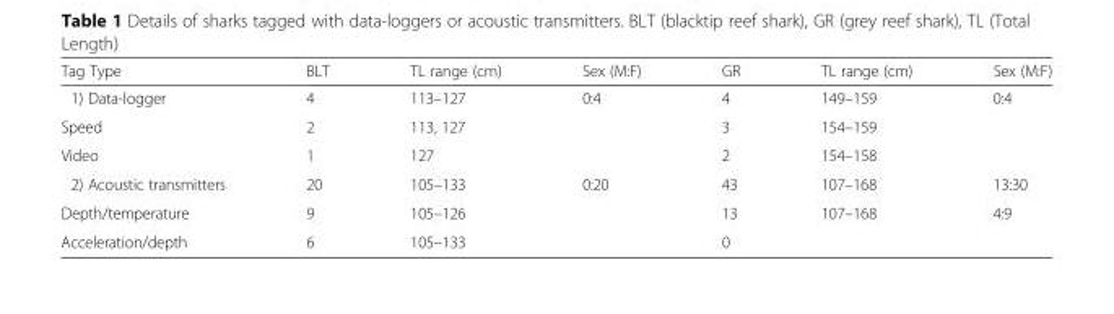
<table><thead><tr><td>Tag Type</td><td>BLT</td><td>TL range (cm)</td><td>Sex (M:F)</td><td>GR</td><td>TL range (cm)</td><td>Sex (M:F)</td></tr></thead><tbody><tr><td>1) Data-logger</td><td>4</td><td>113–127</td><td>0:4</td><td>4</td><td>149–159</td><td>0:4</td></tr><tr><td>Speed</td><td>2</td><td>113, 127</td><td></td><td>3</td><td>154–159</td><td></td></tr><tr><td>Video</td><td>1</td><td>127</td><td></td><td>2</td><td>154–158</td><td></td></tr><tr><td>2) Acoustic transmitters</td><td>20</td><td>105–133</td><td>0:20</td><td>43</td><td>107–168</td><td>13:30</td></tr><tr><td>Depth/temperature</td><td>9</td><td>105–126</td><td></td><td>13</td><td>107–168</td><td>4:9</td></tr><tr><td>Acceleration/depth</td><td>6</td><td>105–133</td><td></td><td>0</td><td></td><td></td></tr></tbody></table>